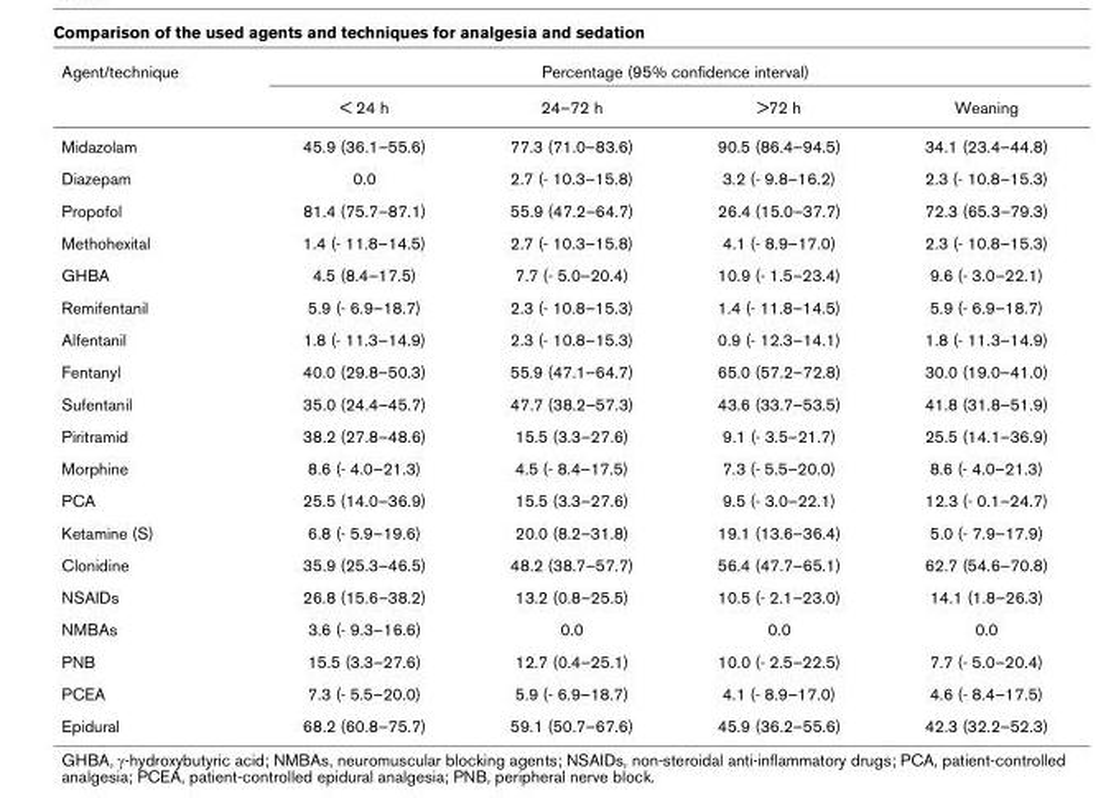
<table><thead><tr><td rowspan="2">Agent/technique</td><td colspan="4">Percentage (95% confidence interval)</td></tr><tr><td>&lt; 24 h</td><td>24–72 h</td><td>&gt;72 h</td><td>Weaning</td></tr></thead><tbody><tr><td>Midazolam</td><td>45.9 (36.1–55.6)</td><td>77.3 (71.0–83.6)</td><td>90.5 (86.4–94.5)</td><td>34.1 (23.4–44.8)</td></tr><tr><td>Diazepam</td><td>0.0</td><td>2.7 (- 10.3–15.8)</td><td>3.2 (- 9.8–16.2)</td><td>2.3 (- 10.8–15.3)</td></tr><tr><td>Propofol</td><td>81.4 (75.7–87.1)</td><td>55.9 (47.2–64.7)</td><td>26.4 (15.0–37.7)</td><td>72.3 (65.3–79.3)</td></tr><tr><td>Methohexital</td><td>1.4 (- 11.8–14.5)</td><td>2.7 (- 10.3–15.8)</td><td>4.1 (- 8.9–17.0)</td><td>2.3 (- 10.8–15.3)</td></tr><tr><td>GHBA</td><td>4.5 (8.4–17.5)</td><td>7.7 (- 5.0–20.4)</td><td>10.9 (- 1.5–23.4)</td><td>9.6 (- 3.0–22.1)</td></tr><tr><td>Remifentanil</td><td>5.9 (- 6.9–18.7)</td><td>2.3 (- 10.8–15.3)</td><td>1.4 (- 11.8–14.5)</td><td>5.9 (- 6.9–18.7)</td></tr><tr><td>Alfentanil</td><td>1.8 (- 11.3–14.9)</td><td>2.3 (- 10.8–15.3)</td><td>0.9 (- 12.3–14.1)</td><td>1.8 (- 11.3–14.9)</td></tr><tr><td>Fentanyl</td><td>40.0 (29.8–50.3)</td><td>55.9 (47.1–64.7)</td><td>65.0 (57.2–72.8)</td><td>30.0 (19.0–41.0)</td></tr><tr><td>Sufentanil</td><td>35.0 (24.4–45.7)</td><td>47.7 (38.2–57.3)</td><td>43.6 (33.7–53.5)</td><td>41.8 (31.8–51.9)</td></tr><tr><td>Piritramid</td><td>38.2 (27.8–48.6)</td><td>15.5 (3.3–27.6)</td><td>9.1 (- 3.5–21.7)</td><td>25.5 (14.1–36.9)</td></tr><tr><td>Morphine</td><td>8.6 (- 4.0–21.3)</td><td>4.5 (- 8.4–17.5)</td><td>7.3 (- 5.5–20.0)</td><td>8.6 (- 4.0–21.3)</td></tr><tr><td>PCA</td><td>25.5 (14.0–36.9)</td><td>15.5 (3.3–27.6)</td><td>9.5 (- 3.0–22.1)</td><td>12.3 (- 0.1–24.7)</td></tr><tr><td>Ketamine (S)</td><td>6.8 (- 5.9–19.6)</td><td>20.0 (8.2–31.8)</td><td>19.1 (13.6–36.4)</td><td>5.0 (- 7.9–17.9)</td></tr><tr><td>Clonidine</td><td>35.9 (25.3–46.5)</td><td>48.2 (38.7–57.7)</td><td>56.4 (47.7–65.1)</td><td>62.7 (54.6–70.8)</td></tr><tr><td>NSAIDs</td><td>26.8 (15.6–38.2)</td><td>13.2 (0.8–25.5)</td><td>10.5 (- 2.1–23.0)</td><td>14.1 (1.8–26.3)</td></tr><tr><td>NMBAs</td><td>3.6 (- 9.3–16.6)</td><td>0.0</td><td>0.0</td><td>0.0</td></tr><tr><td>PNB</td><td>15.5 (3.3–27.6)</td><td>12.7 (0.4–25.1)</td><td>10.0 (- 2.5–22.5)</td><td>7.7 (- 5.0–20.4)</td></tr><tr><td>PCEA</td><td>7.3 (- 5.5–20.0)</td><td>5.9 (- 6.9–18.7)</td><td>4.1 (- 8.9–17.0)</td><td>4.6 (- 8.4–17.5)</td></tr><tr><td>Epidural</td><td>68.2 (60.8–75.7)</td><td>59.1 (50.7–67.6)</td><td>45.9 (36.2–55.6)</td><td>42.3 (32.2–52.3)</td></tr></tbody></table>